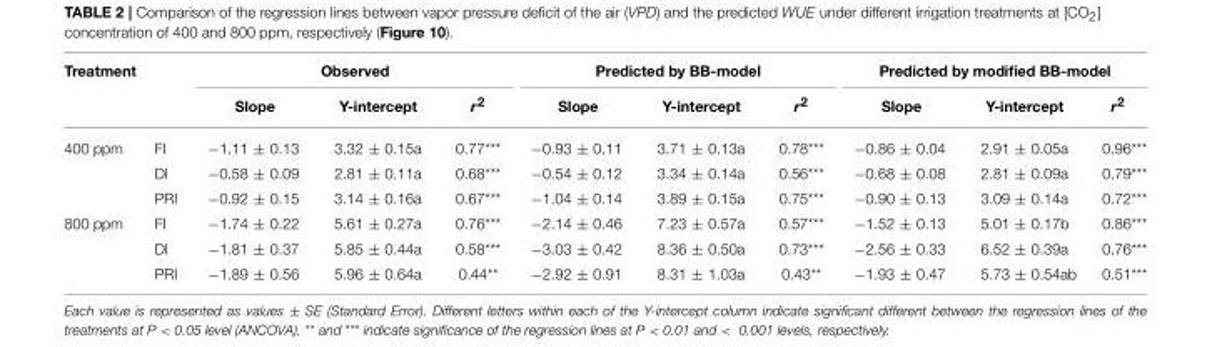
<table><thead><tr><td colspan="2">Treatment</td><td colspan="3">Observed</td><td colspan="3">Predicted by BB-model</td><td colspan="3">Predicted by modified BB-model</td></tr><tr><td></td><td></td><td>Slope</td><td>Y-intercept</td><td>r<sup>2</sup></td><td>Slope</td><td>Y-intercept</td><td>r<sup>2</sup></td><td>Slope</td><td>Y-intercept</td><td>r<sup>2</sup></td></tr></thead><tbody><tr><td rowspan="3">400 ppm</td><td>FI</td><td>−1.11 ± 0.13</td><td>3.32 ± 0.15a</td><td>0.77***</td><td>−0.93 ± 0.11</td><td>3.71 ± 0.13a</td><td>0.78***</td><td>−0.86 ± 0.04</td><td>2.91 ± 0.05a</td><td>0.96***</td></tr><tr><td>DI</td><td>−0.58 ± 0.09</td><td>2.81 ± 0.11a</td><td>0.68***</td><td>−0.54 ± 0.12</td><td>3.34 ± 0.14a</td><td>0.56***</td><td>−0.68 ± 0.08</td><td>2.81 ± 0.09a</td><td>0.79***</td></tr><tr><td>PRI</td><td>−0.92 ± 0.15</td><td>3.14 ± 0.16a</td><td>0.67***</td><td>−1.04 ± 0.14</td><td>3.89 ± 0.15a</td><td>0.75***</td><td>−0.90 ± 0.13</td><td>3.09 ± 0.14a</td><td>0.72***</td></tr><tr><td rowspan="3">800 ppm</td><td>FI</td><td>−1.74 ± 0.22</td><td>5.61 ± 0.27a</td><td>0.76***</td><td>−2.14 ± 0.46</td><td>7.23 ± 0.57a</td><td>0.57***</td><td>−1.52 ± 0.13</td><td>5.01 ± 0.17b</td><td>0.86***</td></tr><tr><td>DI</td><td>−1.81 ± 0.37</td><td>5.85 ± 0.44a</td><td>0.58***</td><td>−3.03 ± 0.42</td><td>8.36 ± 0.50a</td><td>0.73***</td><td>−2.56 ± 0.33</td><td>6.52 ± 0.39a</td><td>0.76***</td></tr><tr><td>PRI</td><td>−1.89 ± 0.56</td><td>5.96 ± 0.64a</td><td>0.44**</td><td>−2.92 ± 0.91</td><td>8.31 ± 1.03a</td><td>0.43**</td><td>−1.93 ± 0.47</td><td>5.73 ± 0.54ab</td><td>0.51***</td></tr></tbody></table>